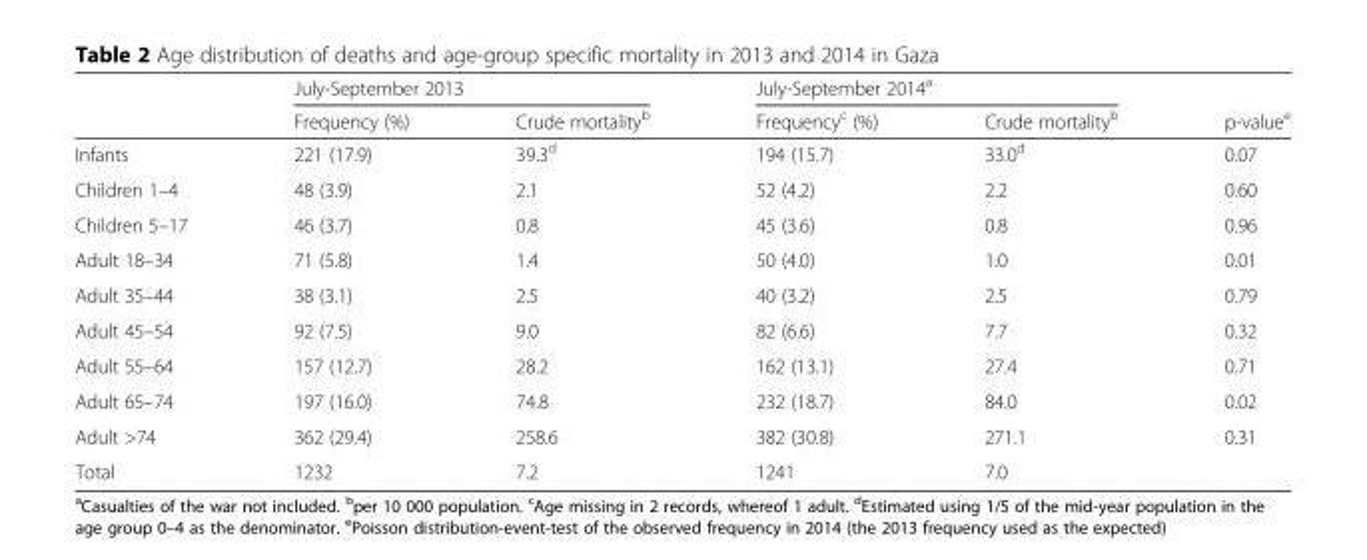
<table><thead><tr><td rowspan="2"></td><td colspan="2">July-September 2013</td><td colspan="2">July-September 2014<sup>a</sup></td><td rowspan="2">p-value<sup>e</sup></td></tr><tr><td>Frequency (%)</td><td>Crude mortality<sup>b</sup></td><td>Frequency<sup>c</sup> (%)</td><td>Crude mortality<sup>b</sup></td></tr></thead><tbody><tr><td>Infants</td><td>221 (17.9)</td><td>39.3<sup>d</sup></td><td>194 (15.7)</td><td>33.0<sup>d</sup></td><td>0.07</td></tr><tr><td>Children 1–4</td><td>48 (3.9)</td><td>2.1</td><td>52 (4.2)</td><td>2.2</td><td>0.60</td></tr><tr><td>Children 5–17</td><td>46 (3.7)</td><td>0.8</td><td>45 (3.6)</td><td>0.8</td><td>0.96</td></tr><tr><td>Adult 18–34</td><td>71 (5.8)</td><td>1.4</td><td>50 (4.0)</td><td>1.0</td><td>0.01</td></tr><tr><td>Adult 35–44</td><td>38 (3.1)</td><td>2.5</td><td>40 (3.2)</td><td>2.5</td><td>0.79</td></tr><tr><td>Adult 45–54</td><td>92 (7.5)</td><td>9.0</td><td>82 (6.6)</td><td>7.7</td><td>0.32</td></tr><tr><td>Adult 55–64</td><td>157 (12.7)</td><td>28.2</td><td>162 (13.1)</td><td>27.4</td><td>0.71</td></tr><tr><td>Adult 65–74</td><td>197 (16.0)</td><td>74.8</td><td>232 (18.7)</td><td>84.0</td><td>0.02</td></tr><tr><td>Adult &gt;74</td><td>362 (29.4)</td><td>258.6</td><td>382 (30.8)</td><td>271.1</td><td>0.31</td></tr><tr><td>Total</td><td>1232</td><td>7.2</td><td>1241</td><td>7.0</td><td></td></tr></tbody></table>